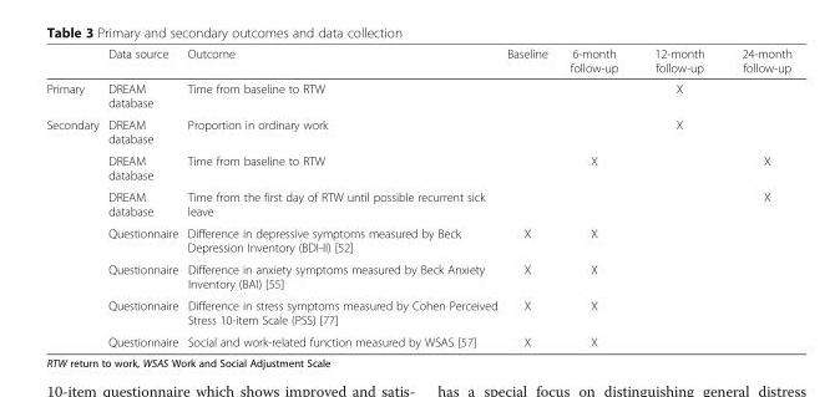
<table><thead><tr><td></td><td>Data source</td><td>Outcome</td><td>Baseline</td><td>6-month follow-up</td><td>12-month follow-up</td><td>24-month follow-up</td></tr></thead><tbody><tr><td>Primary</td><td>DREAM database</td><td>Time from baseline to RTW</td><td></td><td></td><td>X</td><td></td></tr><tr><td rowspan="7">Secondary</td><td>DREAM database</td><td>Proportion in ordinary work</td><td></td><td></td><td>X</td><td></td></tr><tr><td>DREAM database</td><td>Time from baseline to RTW</td><td></td><td>X</td><td></td><td>X</td></tr><tr><td>DREAM database</td><td>Time from the first day of RTW until possible recurrent sick leave</td><td></td><td></td><td></td><td>X</td></tr><tr><td>Questionnaire</td><td>Difference in depressive symptoms measured by Beck Depression Inventory (BDI-II) [52]</td><td>X</td><td>X</td><td></td><td></td></tr><tr><td>Questionnaire</td><td>Difference in anxiety symptoms measured by Beck Anxiety Inventory (BAI) [55]</td><td>X</td><td>X</td><td></td><td></td></tr><tr><td>Questionnaire</td><td>Difference in stress symptoms measured by Cohen Perceived Stress 10-item Scale (PSS) [77]</td><td>X</td><td>X</td><td></td><td></td></tr><tr><td>Questionnaire</td><td>Social and work-related function measured by WSAS [57]</td><td>X</td><td>X</td><td></td><td></td></tr></tbody></table>